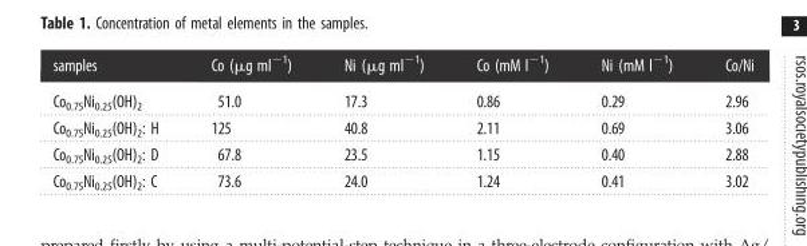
<table><thead><tr><td>samples</td><td>Co (µg ml<sup>−1</sup>)</td><td>Ni (µg ml<sup>−1</sup>)</td><td>Co (mM l<sup>−1</sup>)</td><td>Ni (mM l<sup>−1</sup>)</td><td>Co/Ni</td></tr></thead><tbody><tr><td>Co<sub>0.75</sub>Ni<sub>0.25</sub>(OH)<sub>2</sub></td><td>51.0</td><td>17.3</td><td>0.86</td><td>0.29</td><td>2.96</td></tr><tr><td>Co<sub>0.75</sub>Ni<sub>0.25</sub>(OH)<sub>2</sub>: H</td><td>125</td><td>40.8</td><td>2.11</td><td>0.69</td><td>3.06</td></tr><tr><td>Co<sub>0.75</sub>Ni<sub>0.25</sub>(OH)<sub>2</sub>: D</td><td>67.8</td><td>23.5</td><td>1.15</td><td>0.40</td><td>2.88</td></tr><tr><td>Co<sub>0.75</sub>Ni<sub>0.25</sub>(OH)<sub>2</sub>: C</td><td>73.6</td><td>24.0</td><td>1.24</td><td>0.41</td><td>3.02</td></tr></tbody></table>